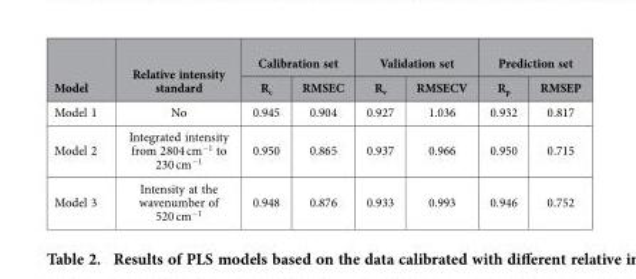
<table><thead><tr><td rowspan="2">Model</td><td rowspan="2">Relative intensity standard</td><td colspan="2">Calibration set</td><td colspan="2">Validation set</td><td colspan="2">Prediction set</td></tr><tr><td>R<sub>c</sub></td><td>RMSEC</td><td>R<sub>v</sub></td><td>RMSECV</td><td>R<sub>p</sub></td><td>RMSEP</td></tr></thead><tbody><tr><td>Model 1</td><td>No</td><td>0.945</td><td>0.904</td><td>0.927</td><td>1.036</td><td>0.932</td><td>0.817</td></tr><tr><td>Model 2</td><td>Integrated intensity from 2804 cm<sup>−1</sup> to 230 cm<sup>−1</sup></td><td>0.950</td><td>0.865</td><td>0.937</td><td>0.966</td><td>0.950</td><td>0.715</td></tr><tr><td>Model 3</td><td>Intensity at the wavenumber of 520 cm<sup>−1</sup></td><td>0.948</td><td>0.876</td><td>0.933</td><td>0.993</td><td>0.946</td><td>0.752</td></tr></tbody></table>